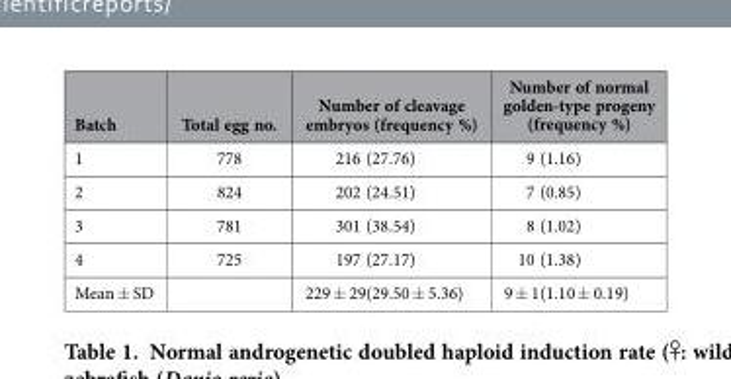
<table><thead><tr><td>Batch</td><td>Total egg no.</td><td>Number of cleavage embryos (frequency %)</td><td>Number of normal golden-type progeny (frequency %)</td></tr></thead><tbody><tr><td>1</td><td>778</td><td>216 (27.76)</td><td>9 (1.16)</td></tr><tr><td>2</td><td>824</td><td>202 (24.51)</td><td>7 (0.85)</td></tr><tr><td>3</td><td>781</td><td>301 (38.54)</td><td>8 (1.02)</td></tr><tr><td>4</td><td>725</td><td>197 (27.17)</td><td>10 (1.38)</td></tr><tr><td>Mean ± SD</td><td></td><td>229 ± 29(29.50 ± 5.36)</td><td>9 ± 1(1.10 ± 0.19)</td></tr></tbody></table>